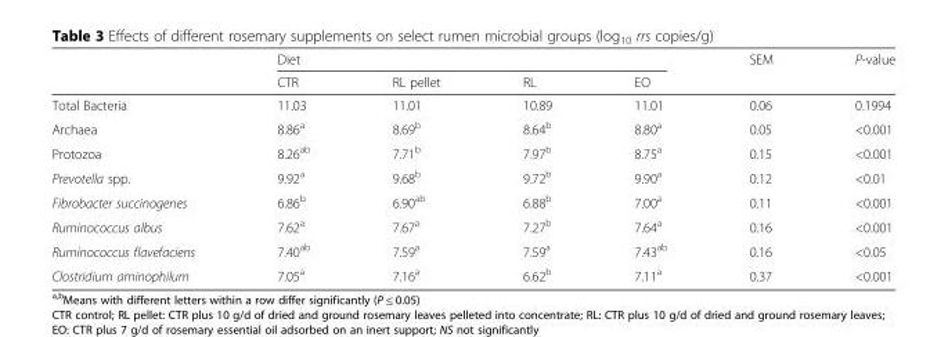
<table><thead><tr><td rowspan="2"></td><td colspan="4">Diet</td><td rowspan="2">SEM</td><td rowspan="2">P-value</td></tr><tr><td>CTR</td><td>RL pellet</td><td>RL</td><td>EO</td></tr></thead><tbody><tr><td>Total Bacteria</td><td>11.03</td><td>11.01</td><td>10.89</td><td>11.01</td><td>0.06</td><td>0.1994</td></tr><tr><td>Archaea</td><td>8.86<sup>a</sup></td><td>8.69<sup>b</sup></td><td>8.64<sup>b</sup></td><td>8.80<sup>a</sup></td><td>0.05</td><td>&lt;0.001</td></tr><tr><td>Protozoa</td><td>8.26<sup>ab</sup></td><td>7.71<sup>b</sup></td><td>7.97<sup>b</sup></td><td>8.75<sup>a</sup></td><td>0.15</td><td>&lt;0.001</td></tr><tr><td>Prevotella spp.</td><td>9.92<sup>a</sup></td><td>9.68<sup>b</sup></td><td>9.72<sup>b</sup></td><td>9.90<sup>a</sup></td><td>0.12</td><td>&lt;0.01</td></tr><tr><td>Fibrobacter succinogenes</td><td>6.86<sup>b</sup></td><td>6.90<sup>ab</sup></td><td>6.88<sup>b</sup></td><td>7.00<sup>a</sup></td><td>0.11</td><td>&lt;0.001</td></tr><tr><td>Ruminococcus albus</td><td>7.62<sup>a</sup></td><td>7.67<sup>a</sup></td><td>7.27<sup>b</sup></td><td>7.64<sup>a</sup></td><td>0.16</td><td>&lt;0.001</td></tr><tr><td>Ruminococcus flavefaciens</td><td>7.40<sup>ab</sup></td><td>7.59<sup>a</sup></td><td>7.59<sup>a</sup></td><td>7.43<sup>ab</sup></td><td>0.16</td><td>&lt;0.05</td></tr><tr><td>Clostridium aminophilum</td><td>7.05<sup>a</sup></td><td>7.16<sup>a</sup></td><td>6.62<sup>b</sup></td><td>7.11<sup>a</sup></td><td>0.37</td><td>&lt;0.001</td></tr></tbody></table>